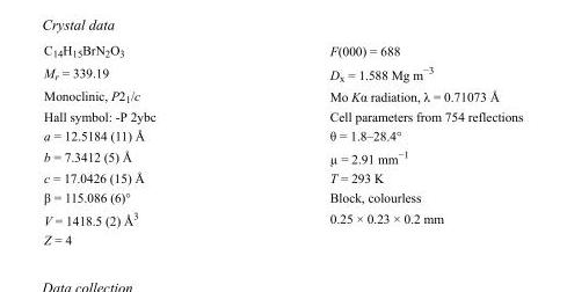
<table><tbody><tr><td>C<sub>14</sub>H<sub>15</sub>BrN<sub>2</sub>O<sub>3</sub></td><td>F(000) = 688</td></tr><tr><td>M<sub>r</sub> = 339.19</td><td>D<sub>x</sub> = 1.588 Mg m<sup>−3</sup></td></tr><tr><td>Monoclinic, P2<sub>1</sub>/c</td><td>Mo Kα radiation, λ = 0.71073 Å</td></tr><tr><td>Hall symbol: -P 2ybc</td><td>Cell parameters from 754 reflections</td></tr><tr><td>a = 12.5184 (11) Å</td><td>θ = 1.8–28.4°</td></tr><tr><td>b = 7.3412 (5) Å</td><td>µ = 2.91 mm<sup>−1</sup></td></tr><tr><td>c = 17.0426 (15) Å</td><td>T = 293 K</td></tr><tr><td>β = 115.086 (6)°</td><td>Block, colourless</td></tr><tr><td>V = 1418.5 (2) Å<sup>3</sup></td><td>0.25 × 0.23 × 0.2 mm</td></tr><tr><td>Z = 4</td><td></td></tr></tbody></table>